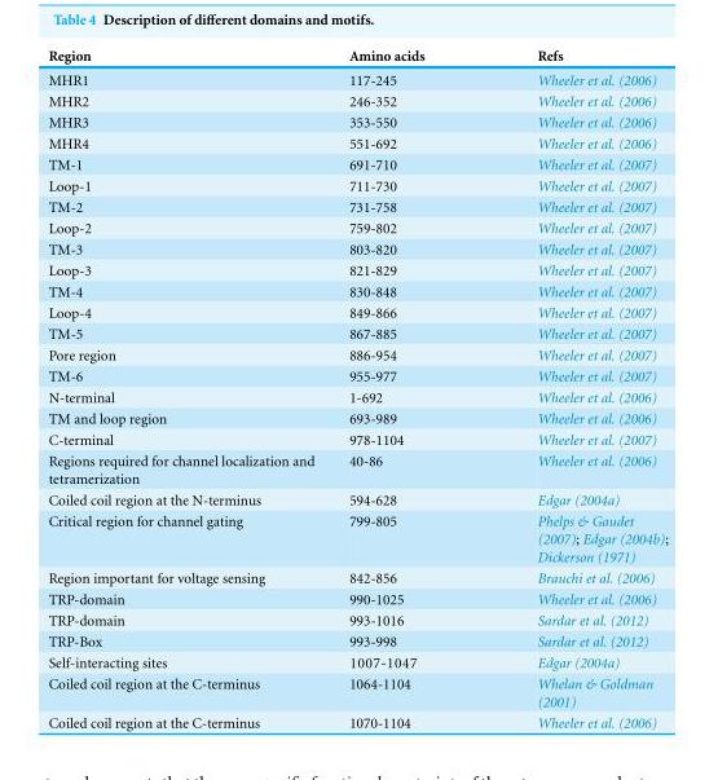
<table><thead><tr><td>Region</td><td>Amino acids</td><td>Refs</td></tr></thead><tbody><tr><td>MHR1</td><td>117-245</td><td>Wheeler et al. (2006)</td></tr><tr><td>MHR2</td><td>246-352</td><td>Wheeler et al. (2006)</td></tr><tr><td>MHR3</td><td>353-550</td><td>Wheeler et al. (2006)</td></tr><tr><td>MHR4</td><td>551-692</td><td>Wheeler et al. (2006)</td></tr><tr><td>TM-1</td><td>691-710</td><td>Wheeler et al. (2007)</td></tr><tr><td>Loop-1</td><td>711-730</td><td>Wheeler et al. (2007)</td></tr><tr><td>TM-2</td><td>731-758</td><td>Wheeler et al. (2007)</td></tr><tr><td>Loop-2</td><td>759-802</td><td>Wheeler et al. (2007)</td></tr><tr><td>TM-3</td><td>803-820</td><td>Wheeler et al. (2007)</td></tr><tr><td>Loop-3</td><td>821-829</td><td>Wheeler et al. (2007)</td></tr><tr><td>TM-4</td><td>830-848</td><td>Wheeler et al. (2007)</td></tr><tr><td>Loop-4</td><td>849-866</td><td>Wheeler et al. (2007)</td></tr><tr><td>TM-5</td><td>867-885</td><td>Wheeler et al. (2007)</td></tr><tr><td>Pore region</td><td>886-954</td><td>Wheeler et al. (2007)</td></tr><tr><td>TM-6</td><td>955-977</td><td>Wheeler et al. (2007)</td></tr><tr><td>N-terminal</td><td>1-692</td><td>Wheeler et al. (2006)</td></tr><tr><td>TM and loop region</td><td>693-989</td><td>Wheeler et al. (2006)</td></tr><tr><td>C-terminal</td><td>978-1104</td><td>Wheeler et al. (2007)</td></tr><tr><td>Regions required for channel localization and tetramerization</td><td>40-86</td><td>Wheeler et al. (2006)</td></tr><tr><td>Coiled coil region at the N-terminus</td><td>594-628</td><td>Edgar (2004a)</td></tr><tr><td>Critical region for channel gating</td><td>799-805</td><td>Phelps &amp; Gaudet (2007); Edgar (2004b); Dickerson (1971)</td></tr><tr><td>Region important for voltage sensing</td><td>842-856</td><td>Brauchi et al. (2006)</td></tr><tr><td>TRP-domain</td><td>990-1025</td><td>Wheeler et al. (2006)</td></tr><tr><td>TRP-domain</td><td>993-1016</td><td>Sardar et al. (2012)</td></tr><tr><td>TRP-Box</td><td>993-998</td><td>Sardar et al. (2012)</td></tr><tr><td>Self-interacting sites</td><td>1007-1047</td><td>Edgar (2004a)</td></tr><tr><td>Coiled coil region at the C-terminus</td><td>1064-1104</td><td>Whelan &amp; Goldman (2001)</td></tr><tr><td>Coiled coil region at the C-terminus</td><td>1070-1104</td><td>Wheeler et al. (2006)</td></tr></tbody></table>